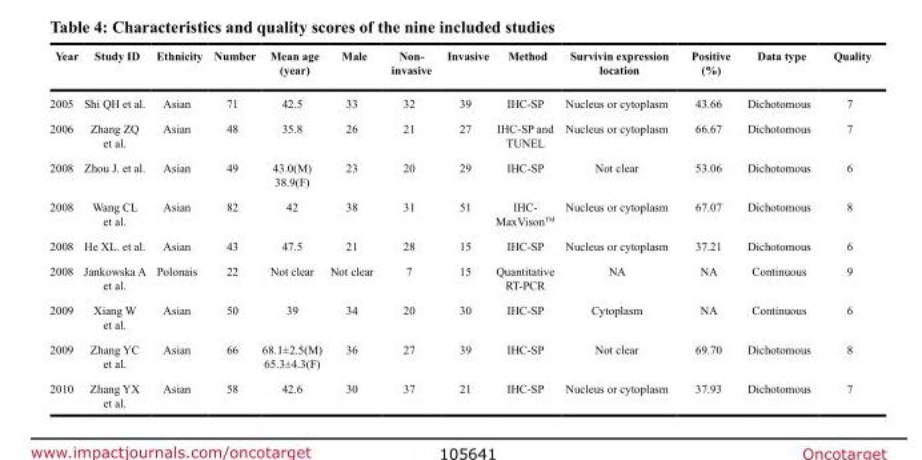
<table><thead><tr><td>Year</td><td>Study ID</td><td>Ethnicity</td><td>Number</td><td>Mean age (year)</td><td>Male</td><td>Non- invasive</td><td>Invasive</td><td>Method</td><td>Survivin expression location</td><td>Positive (%)</td><td>Data type</td><td>Quality</td></tr></thead><tbody><tr><td>2005</td><td>Shi QH et al.</td><td>Asian</td><td>71</td><td>42.5</td><td>33</td><td>32</td><td>39</td><td>IHC-SP</td><td>Nucleus or cytoplasm</td><td>43.66</td><td>Dichotomous</td><td>7</td></tr><tr><td>2006</td><td>Zhang ZQ et al.</td><td>Asian</td><td>48</td><td>35.8</td><td>26</td><td>21</td><td>27</td><td>IHC-SP and TUNEL</td><td>Nucleus or cytoplasm</td><td>66.67</td><td>Dichotomous</td><td>7</td></tr><tr><td>2008</td><td>Zhou J. et al.</td><td>Asian</td><td>49</td><td>43.0(M) 38.9(F)</td><td>23</td><td>20</td><td>29</td><td>IHC-SP</td><td>Not clear</td><td>53.06</td><td>Dichotomous</td><td>6</td></tr><tr><td>2008</td><td>Wang CL et al.</td><td>Asian</td><td>82</td><td>42</td><td>38</td><td>31</td><td>51</td><td>IHC- MaxVison<sup>TM</sup></td><td>Nucleus or cytoplasm</td><td>67.07</td><td>Dichotomous</td><td>8</td></tr><tr><td>2008</td><td>He XL. et al.</td><td>Asian</td><td>43</td><td>47.5</td><td>21</td><td>28</td><td>15</td><td>IHC-SP</td><td>Nucleus or cytoplasm</td><td>37.21</td><td>Dichotomous</td><td>6</td></tr><tr><td>2008</td><td>Jankowska A et al.</td><td>Polonais</td><td>22</td><td>Not clear</td><td>Not clear</td><td>7</td><td>15</td><td>Quantitative RT-PCR</td><td>NA</td><td>NA</td><td>Continuous</td><td>9</td></tr><tr><td>2009</td><td>Xiang W et al.</td><td>Asian</td><td>50</td><td>39</td><td>34</td><td>20</td><td>30</td><td>IHC-SP</td><td>Cytoplasm</td><td>NA</td><td>Continuous</td><td>6</td></tr><tr><td>2009</td><td>Zhang YC et al.</td><td>Asian</td><td>66</td><td>68.1±2.5(M) 65.3±4.3(F)</td><td>36</td><td>27</td><td>39</td><td>IHC-SP</td><td>Not clear</td><td>69.70</td><td>Dichotomous</td><td>8</td></tr><tr><td>2010</td><td>Zhang YX et al.</td><td>Asian</td><td>58</td><td>42.6</td><td>30</td><td>37</td><td>21</td><td>IHC-SP</td><td>Nucleus or cytoplasm</td><td>37.93</td><td>Dichotomous</td><td>7</td></tr></tbody></table>